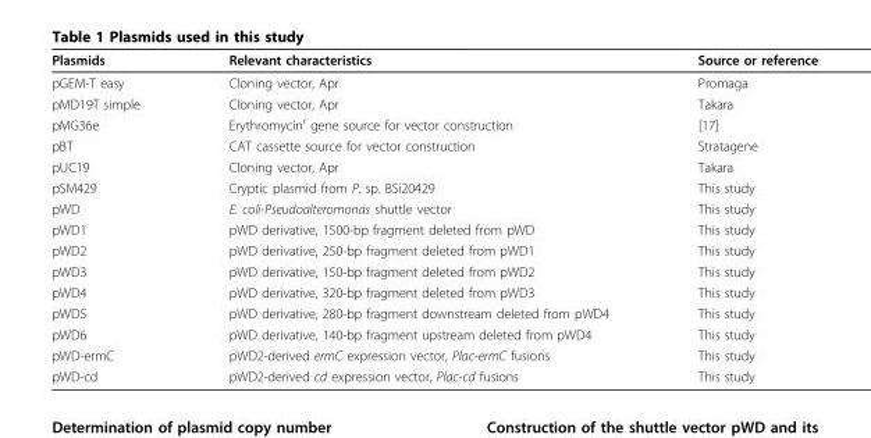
<table><thead><tr><td>Plasmids</td><td>Relevant characteristics</td><td>Source or reference</td></tr></thead><tbody><tr><td>pGEM-T easy</td><td>Cloning vector, Apr</td><td>Promaga</td></tr><tr><td>pMD19T simple</td><td>Cloning vector, Apr</td><td>Takara</td></tr><tr><td>pMG36e</td><td>Erythromycin<sup>r</sup> gene source for vector construction</td><td>[17]</td></tr><tr><td>pBT</td><td>CAT cassette source for vector construction</td><td>Stratagene</td></tr><tr><td>pUC19</td><td>Cloning vector, Apr</td><td>Takara</td></tr><tr><td>pSM429</td><td>Cryptic plasmid from P. sp. BSi20429</td><td>This study</td></tr><tr><td>pWD</td><td>E. coli-Pseudoalteromonas shuttle vector</td><td>This study</td></tr><tr><td>pWD1</td><td>pWD derivative, 1500-bp fragment deleted from pWD</td><td>This study</td></tr><tr><td>pWD2</td><td>pWD derivative, 250-bp fragment deleted from pWD1</td><td>This study</td></tr><tr><td>pWD3</td><td>pWD derivative, 150-bp fragment deleted from pWD2</td><td>This study</td></tr><tr><td>pWD4</td><td>pWD derivative, 320-bp fragment deleted from pWD3</td><td>This study</td></tr><tr><td>pWD5</td><td>pWD derivative, 280-bp fragment downstream deleted from pWD4</td><td>This study</td></tr><tr><td>pWD6</td><td>pWD derivative, 140-bp fragment upstream deleted from pWD4</td><td>This study</td></tr><tr><td>pWD-ermC</td><td>pWD2-derived ermC expression vector, Plac-ermC fusions</td><td>This study</td></tr><tr><td>pWD-cd</td><td>pWD2-derived cd expression vector, Plac-cd fusions</td><td>This study</td></tr></tbody></table>